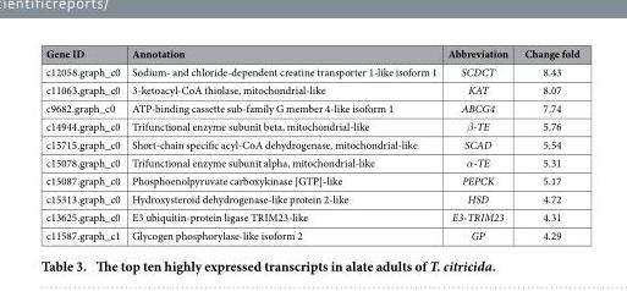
<table><thead><tr><td>Gene ID</td><td>Annotation</td><td>Abbreviation</td><td>Change fold</td></tr></thead><tbody><tr><td>c12058.graph_c0</td><td>Sodium- and chloride-dependent creatine transporter 1-like isoform 1</td><td>SCDCT</td><td>8.43</td></tr><tr><td>c11063.graph_c0</td><td>3-ketoacyl-CoA thiolase, mitochondrial-like</td><td>KAT</td><td>8.07</td></tr><tr><td>c9682.graph_c0</td><td>ATP-binding cassette sub-family G member 4-like isoform 1</td><td>ABCG4</td><td>7.74</td></tr><tr><td>c14944.graph_c0</td><td>Trifunctional enzyme subunit beta, mitochondrial-like</td><td>β-TE</td><td>5.76</td></tr><tr><td>c15715.graph_c0</td><td>Short-chain specific acyl-CoA dehydrogenase, mitochondrial-like</td><td>SCAD</td><td>5.54</td></tr><tr><td>c15078.graph_c0</td><td>Trifunctional enzyme subunit alpha, mitochondrial-like</td><td>α-TE</td><td>5.31</td></tr><tr><td>c15087.graph_c0</td><td>Phosphoenolpyruvate carboxykinase [GTP]-like</td><td>PEPCK</td><td>5.17</td></tr><tr><td>c15313.graph_c0</td><td>Hydroxysteroid dehydrogenase-like protein 2-like</td><td>HSD</td><td>4.72</td></tr><tr><td>c13625.graph_c0</td><td>E3 ubiquitin-protein ligase TRIM23-like</td><td>E3-TRIM23</td><td>4.31</td></tr><tr><td>c11587.graph_c1</td><td>Glycogen phosphorylase-like isoform 2</td><td>GP</td><td>4.29</td></tr></tbody></table>